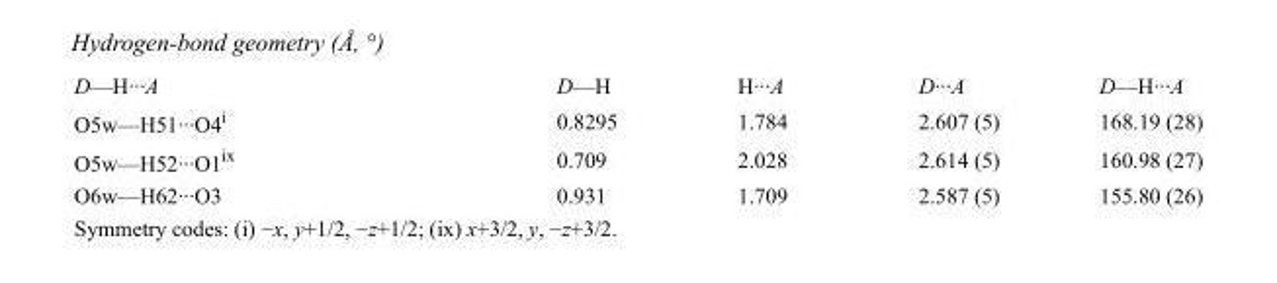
<table><tbody><tr><td>D—H···A</td><td>D—H</td><td>H···A</td><td>D···A</td><td>D—H···A</td></tr><tr><td>O5w—H51···O4<sup>i</sup></td><td>0.8295</td><td>1.784</td><td>2.607 (5)</td><td>168.19 (28)</td></tr><tr><td>O5w—H52···O1<sup>ix</sup></td><td>0.709</td><td>2.028</td><td>2.614 (5)</td><td>160.98 (27)</td></tr><tr><td>O6w—H62···O3</td><td>0.931</td><td>1.709</td><td>2.587 (5)</td><td>155.80 (26)</td></tr></tbody></table>